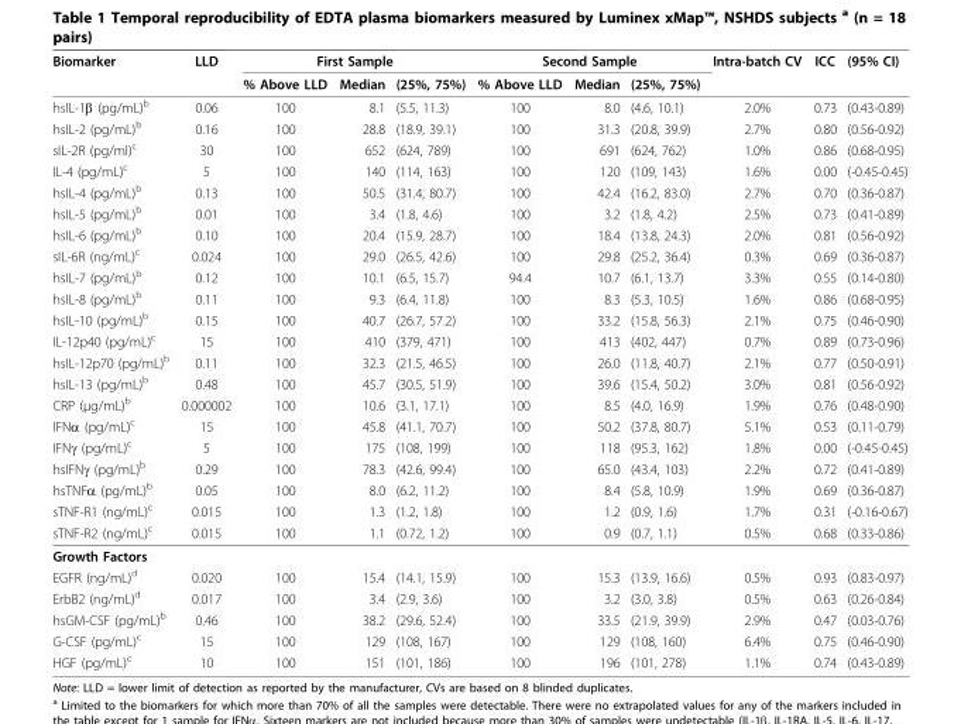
<table><thead><tr><td rowspan="2">Biomarker</td><td rowspan="2">LLD</td><td colspan="3">First Sample</td><td colspan="3">Second Sample</td><td rowspan="2">Intra-batch CV</td><td rowspan="2">ICC</td><td rowspan="2">(95% CI)</td></tr><tr><td>% Above LLD</td><td>Median</td><td>(25%, 75%)</td><td>% Above LLD</td><td>Median</td><td>(25%, 75%)</td></tr></thead><tbody><tr><td>hsIL-1β (pg/mL)<sup>b</sup></td><td>0.06</td><td>100</td><td>8.1</td><td>(5.5, 11.3)</td><td>100</td><td>8.0</td><td>(4.6, 10.1)</td><td>2.0%</td><td>0.73</td><td>(0.43-0.89)</td></tr><tr><td>hsIL-2 (pg/mL)<sup>b</sup></td><td>0.16</td><td>100</td><td>28.8</td><td>(18.9, 39.1)</td><td>100</td><td>31.3</td><td>(20.8, 39.9)</td><td>2.7%</td><td>0.80</td><td>(0.56-0.92)</td></tr><tr><td>sIL-2R (pg/ml)<sup>c</sup></td><td>30</td><td>100</td><td>652</td><td>(624, 789)</td><td>100</td><td>691</td><td>(624, 762)</td><td>1.0%</td><td>0.86</td><td>(0.68-0.95)</td></tr><tr><td>IL-4 (pg/mL)<sup>c</sup></td><td>5</td><td>100</td><td>140</td><td>(114, 163)</td><td>100</td><td>120</td><td>(109, 143)</td><td>1.6%</td><td>0.00</td><td>(-0.45-0.45)</td></tr><tr><td>hsIL-4 (pg/mL)<sup>b</sup></td><td>0.13</td><td>100</td><td>50.5</td><td>(31.4, 80.7)</td><td>100</td><td>42.4</td><td>(16.2, 83.0)</td><td>2.7%</td><td>0.70</td><td>(0.36-0.87)</td></tr><tr><td>hsIL-5 (pg/mL)<sup>b</sup></td><td>0.01</td><td>100</td><td>3.4</td><td>(1.8, 4.6)</td><td>100</td><td>3.2</td><td>(1.8, 4.2)</td><td>2.5%</td><td>0.73</td><td>(0.41-0.89)</td></tr><tr><td>hsIL-6 (pg/mL)<sup>b</sup></td><td>0.10</td><td>100</td><td>20.4</td><td>(15.9, 28.7)</td><td>100</td><td>18.4</td><td>(13.8, 24.3)</td><td>2.0%</td><td>0.81</td><td>(0.56-0.92)</td></tr><tr><td>sIL-6R (ng/mL)<sup>c</sup></td><td>0.024</td><td>100</td><td>29.0</td><td>(26.5, 42.6)</td><td>100</td><td>29.8</td><td>(25.2, 36.4)</td><td>0.3%</td><td>0.69</td><td>(0.36-0.87)</td></tr><tr><td>hsIL-7 (pg/mL)<sup>b</sup></td><td>0.12</td><td>100</td><td>10.1</td><td>(6.5, 15.7)</td><td>94.4</td><td>10.7</td><td>(6.1, 13.7)</td><td>3.3%</td><td>0.55</td><td>(0.14-0.80)</td></tr><tr><td>hsIL-8 (pg/mL)<sup>b</sup></td><td>0.11</td><td>100</td><td>9.3</td><td>(6.4, 11.8)</td><td>100</td><td>8.3</td><td>(5.3, 10.5)</td><td>1.6%</td><td>0.86</td><td>(0.68-0.95)</td></tr><tr><td>hsIL-10 (pg/mL)<sup>b</sup></td><td>0.15</td><td>100</td><td>40.7</td><td>(26.7, 57.2)</td><td>100</td><td>33.2</td><td>(15.8, 56.3)</td><td>2.1%</td><td>0.75</td><td>(0.46-0.90)</td></tr><tr><td>IL-12p40 (pg/mL)<sup>c</sup></td><td>15</td><td>100</td><td>410</td><td>(379, 471)</td><td>100</td><td>413</td><td>(402, 447)</td><td>0.7%</td><td>0.89</td><td>(0.73-0.96)</td></tr><tr><td>hsIL-12p70 (pg/mL)<sup>b</sup></td><td>0.11</td><td>100</td><td>32.3</td><td>(21.5, 46.5)</td><td>100</td><td>26.0</td><td>(11.8, 40.7)</td><td>2.1%</td><td>0.77</td><td>(0.50-0.91)</td></tr><tr><td>hsIL-13 (pg/mL)<sup>b</sup></td><td>0.48</td><td>100</td><td>45.7</td><td>(30.5, 51.9)</td><td>100</td><td>39.6</td><td>(15.4, 50.2)</td><td>3.0%</td><td>0.81</td><td>(0.56-0.92)</td></tr><tr><td>CRP (μg/mL)<sup>b</sup></td><td>0.000002</td><td>100</td><td>10.6</td><td>(3.1, 17.1)</td><td>100</td><td>8.5</td><td>(4.0, 16.9)</td><td>1.9%</td><td>0.76</td><td>(0.48-0.90)</td></tr><tr><td>IFNα (pg/mL)<sup>c</sup></td><td>15</td><td>100</td><td>45.8</td><td>(41.1, 70.7)</td><td>100</td><td>50.2</td><td>(37.8, 80.7)</td><td>5.1%</td><td>0.53</td><td>(0.11-0.79)</td></tr><tr><td>IFNγ (pg/mL)<sup>c</sup></td><td>5</td><td>100</td><td>175</td><td>(108, 199)</td><td>100</td><td>118</td><td>(95.3, 162)</td><td>1.8%</td><td>0.00</td><td>(-0.45-0.45)</td></tr><tr><td>hsIFNγ (pg/mL)<sup>b</sup></td><td>0.29</td><td>100</td><td>78.3</td><td>(42.6, 99.4)</td><td>100</td><td>65.0</td><td>(43.4, 103)</td><td>2.2%</td><td>0.72</td><td>(0.41-0.89)</td></tr><tr><td>hsTNFα (pg/mL)<sup>b</sup></td><td>0.05</td><td>100</td><td>8.0</td><td>(6.2, 11.2)</td><td>100</td><td>8.4</td><td>(5.8, 10.9)</td><td>1.9%</td><td>0.69</td><td>(0.36-0.87)</td></tr><tr><td>sTNF-R1 (ng/mL)<sup>c</sup></td><td>0.015</td><td>100</td><td>1.3</td><td>(1.2, 1.8)</td><td>100</td><td>1.2</td><td>(0.9, 1.6)</td><td>1.7%</td><td>0.31</td><td>(-0.16-0.67)</td></tr><tr><td>sTNF-R2 (ng/mL)<sup>c</sup></td><td>0.015</td><td>100</td><td>1.1</td><td>(0.72, 1.2)</td><td>100</td><td>0.9</td><td>(0.7, 1.1)</td><td>0.5%</td><td>0.68</td><td>(0.33-0.86)</td></tr><tr><td colspan="11">Growth Factors</td></tr><tr><td>EGFR (ng/mL)<sup>d</sup></td><td>0.020</td><td>100</td><td>15.4</td><td>(14.1, 15.9)</td><td>100</td><td>15.3</td><td>(13.9, 16.6)</td><td>0.5%</td><td>0.93</td><td>(0.83-0.97)</td></tr><tr><td>ErbB2 (ng/mL)<sup>d</sup></td><td>0.017</td><td>100</td><td>3.4</td><td>(2.9, 3.6)</td><td>100</td><td>3.2</td><td>(3.0, 3.8)</td><td>0.5%</td><td>0.63</td><td>(0.26-0.84)</td></tr><tr><td>hsGM-CSF (pg/mL)<sup>b</sup></td><td>0.46</td><td>100</td><td>38.2</td><td>(29.6, 52.4)</td><td>100</td><td>33.5</td><td>(21.9, 39.9)</td><td>2.9%</td><td>0.47</td><td>(0.03-0.76)</td></tr><tr><td>G-CSF (pg/mL)<sup>c</sup></td><td>15</td><td>100</td><td>129</td><td>(108, 167)</td><td>100</td><td>129</td><td>(108, 160)</td><td>6.4%</td><td>0.75</td><td>(0.46-0.90)</td></tr><tr><td>HGF (pg/mL)<sup>c</sup></td><td>10</td><td>100</td><td>151</td><td>(101, 186)</td><td>100</td><td>196</td><td>(101, 278)</td><td>1.1%</td><td>0.74</td><td>(0.43-0.89)</td></tr></tbody></table>